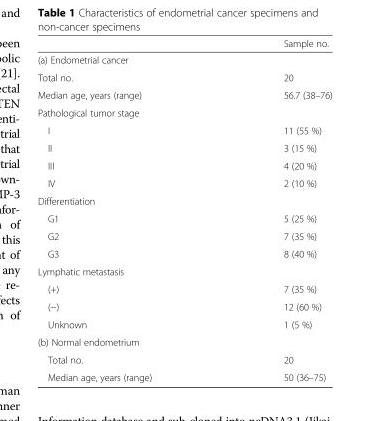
<table><thead><tr><td></td><td>Sample no.</td></tr></thead><tbody><tr><td colspan="2">(a) Endometrial cancer</td></tr><tr><td>Total no.</td><td>20</td></tr><tr><td>Median age, years (range)</td><td>56.7 (38–76)</td></tr><tr><td colspan="2">Pathological tumor stage</td></tr><tr><td>I</td><td>11 (55 %)</td></tr><tr><td>II</td><td>3 (15 %)</td></tr><tr><td>III</td><td>4 (20 %)</td></tr><tr><td>IV</td><td>2 (10 %)</td></tr><tr><td colspan="2">Differentiation</td></tr><tr><td>G1</td><td>5 (25 %)</td></tr><tr><td>G2</td><td>7 (35 %)</td></tr><tr><td>G3</td><td>8 (40 %)</td></tr><tr><td colspan="2">Lymphatic metastasis</td></tr><tr><td>(+)</td><td>7 (35 %)</td></tr><tr><td>(−)</td><td>12 (60 %)</td></tr><tr><td>Unknown</td><td>1 (5 %)</td></tr><tr><td colspan="2">(b) Normal endometrium</td></tr><tr><td>Total no.</td><td>20</td></tr><tr><td>Median age, years (range)</td><td>50 (36–75)</td></tr></tbody></table>